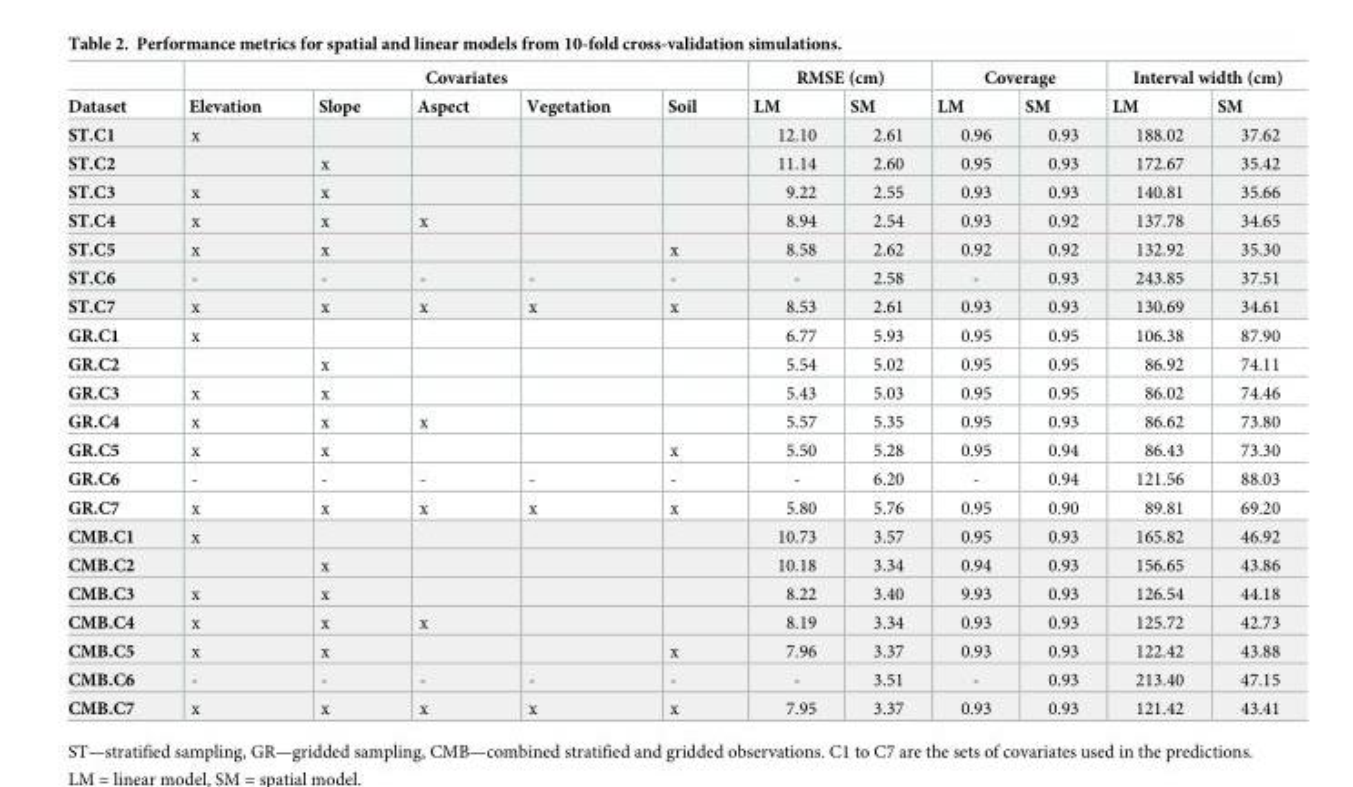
<table><thead><tr><td rowspan="2">Dataset</td><td colspan="5">Covariates</td><td colspan="2">RMSE (cm)</td><td colspan="2">Coverage</td><td colspan="2">Interval width (cm)</td></tr><tr><td>Elevation</td><td>Slope</td><td>Aspect</td><td>Vegetation</td><td>Soil</td><td>LM</td><td>SM</td><td>LM</td><td>SM</td><td>LM</td><td>SM</td></tr></thead><tbody><tr><td>ST.C1</td><td>x</td><td></td><td></td><td></td><td></td><td>12.10</td><td>2.61</td><td>0.96</td><td>0.93</td><td>188.02</td><td>37.62</td></tr><tr><td>ST.C2</td><td></td><td>x</td><td></td><td></td><td></td><td>11.14</td><td>2.60</td><td>0.95</td><td>0.93</td><td>172.67</td><td>35.42</td></tr><tr><td>ST.C3</td><td>x</td><td>x</td><td></td><td></td><td></td><td>9.22</td><td>2.55</td><td>0.93</td><td>0.93</td><td>140.81</td><td>35.66</td></tr><tr><td>ST.C4</td><td>x</td><td>x</td><td>x</td><td></td><td></td><td>8.94</td><td>2.54</td><td>0.93</td><td>0.92</td><td>137.78</td><td>34.65</td></tr><tr><td>ST.C5</td><td>x</td><td>x</td><td></td><td></td><td>x</td><td>8.58</td><td>2.62</td><td>0.92</td><td>0.92</td><td>132.92</td><td>35.30</td></tr><tr><td>ST.C6</td><td>-</td><td>-</td><td>-</td><td>-</td><td>-</td><td>-</td><td>2.58</td><td>-</td><td>0.93</td><td>243.85</td><td>37.51</td></tr><tr><td>ST.C7</td><td>x</td><td>x</td><td>x</td><td>x</td><td>x</td><td>8.53</td><td>2.61</td><td>0.93</td><td>0.93</td><td>130.69</td><td>34.61</td></tr><tr><td>GR.C1</td><td>x</td><td></td><td></td><td></td><td></td><td>6.77</td><td>5.93</td><td>0.95</td><td>0.95</td><td>106.38</td><td>87.90</td></tr><tr><td>GR.C2</td><td></td><td>x</td><td></td><td></td><td></td><td>5.54</td><td>5.02</td><td>0.95</td><td>0.95</td><td>86.92</td><td>74.11</td></tr><tr><td>GR.C3</td><td>x</td><td>x</td><td></td><td></td><td></td><td>5.43</td><td>5.03</td><td>0.95</td><td>0.95</td><td>86.02</td><td>74.46</td></tr><tr><td>GR.C4</td><td>x</td><td>x</td><td>x</td><td></td><td></td><td>5.57</td><td>5.35</td><td>0.95</td><td>0.93</td><td>86.62</td><td>73.80</td></tr><tr><td>GR.C5</td><td>x</td><td>x</td><td></td><td></td><td>x</td><td>5.50</td><td>5.28</td><td>0.95</td><td>0.94</td><td>86.43</td><td>73.30</td></tr><tr><td>GR.C6</td><td>-</td><td>-</td><td>-</td><td>-</td><td>-</td><td>-</td><td>6.20</td><td>-</td><td>0.94</td><td>121.56</td><td>88.03</td></tr><tr><td>GR.C7</td><td>x</td><td>x</td><td>x</td><td>x</td><td>x</td><td>5.80</td><td>5.76</td><td>0.95</td><td>0.90</td><td>89.81</td><td>69.20</td></tr><tr><td>CMB.C1</td><td>x</td><td></td><td></td><td></td><td></td><td>10.73</td><td>3.57</td><td>0.95</td><td>0.93</td><td>165.82</td><td>46.92</td></tr><tr><td>CMB.C2</td><td></td><td>x</td><td></td><td></td><td></td><td>10.18</td><td>3.34</td><td>0.94</td><td>0.93</td><td>156.65</td><td>43.86</td></tr><tr><td>CMB.C3</td><td>x</td><td>x</td><td></td><td></td><td></td><td>8.22</td><td>3.40</td><td>9.93</td><td>0.93</td><td>126.54</td><td>44.18</td></tr><tr><td>CMB.C4</td><td>x</td><td>x</td><td>x</td><td></td><td></td><td>8.19</td><td>3.34</td><td>0.93</td><td>0.93</td><td>125.72</td><td>42.73</td></tr><tr><td>CMB.C5</td><td>x</td><td>x</td><td></td><td></td><td>x</td><td>7.96</td><td>3.37</td><td>0.93</td><td>0.93</td><td>122.42</td><td>43.88</td></tr><tr><td>CMB.C6</td><td>-</td><td>-</td><td>-</td><td>-</td><td>-</td><td>-</td><td>3.51</td><td>-</td><td>0.93</td><td>213.40</td><td>47.15</td></tr><tr><td>CMB.C7</td><td>x</td><td>x</td><td>x</td><td>x</td><td>x</td><td>7.95</td><td>3.37</td><td>0.93</td><td>0.93</td><td>121.42</td><td>43.41</td></tr></tbody></table>